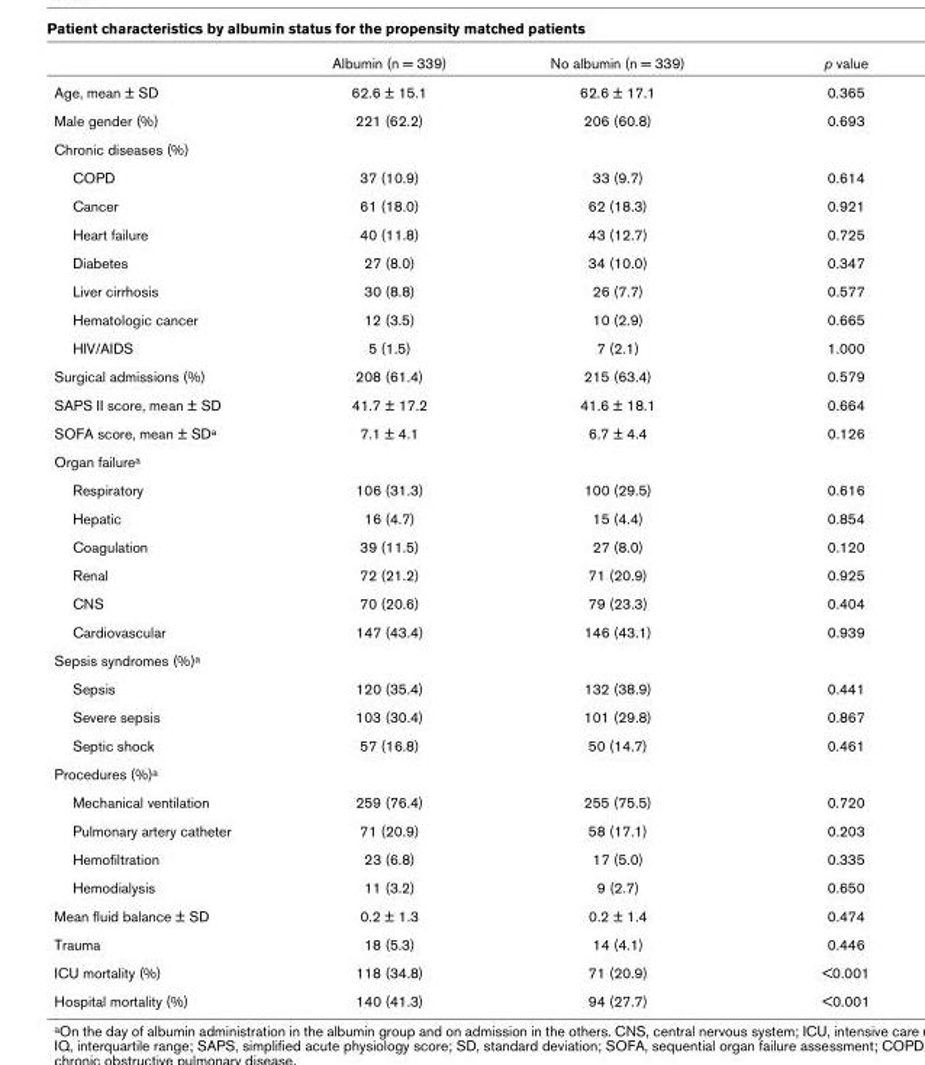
<table><thead><tr><td></td><td>Albumin (n = 339)</td><td>No albumin (n = 339)</td><td>p value</td></tr></thead><tbody><tr><td>Age, mean ± SD</td><td>62.6 ± 15.1</td><td>62.6 ± 17.1</td><td>0.365</td></tr><tr><td>Male gender (%)</td><td>221 (62.2)</td><td>206 (60.8)</td><td>0.693</td></tr><tr><td colspan="4">Chronic diseases (%)</td></tr><tr><td>COPD</td><td>37 (10.9)</td><td>33 (9.7)</td><td>0.614</td></tr><tr><td>Cancer</td><td>61 (18.0)</td><td>62 (18.3)</td><td>0.921</td></tr><tr><td>Heart failure</td><td>40 (11.8)</td><td>43 (12.7)</td><td>0.725</td></tr><tr><td>Diabetes</td><td>27 (8.0)</td><td>34 (10.0)</td><td>0.347</td></tr><tr><td>Liver cirrhosis</td><td>30 (8.8)</td><td>26 (7.7)</td><td>0.577</td></tr><tr><td>Hematologic cancer</td><td>12 (3.5)</td><td>10 (2.9)</td><td>0.665</td></tr><tr><td>HIV/AIDS</td><td>5 (1.5)</td><td>7 (2.1)</td><td>1.000</td></tr><tr><td>Surgical admissions (%)</td><td>208 (61.4)</td><td>215 (63.4)</td><td>0.579</td></tr><tr><td>SAPS II score, mean ± SD</td><td>41.7 ± 17.2</td><td>41.6 ± 18.1</td><td>0.664</td></tr><tr><td>SOFA score, mean ± SDa</td><td>7.1 ± 4.1</td><td>6.7 ± 4.4</td><td>0.126</td></tr><tr><td colspan="4">Organ failurea</td></tr><tr><td>Respiratory</td><td>106 (31.3)</td><td>100 (29.5)</td><td>0.616</td></tr><tr><td>Hepatic</td><td>16 (4.7)</td><td>15 (4.4)</td><td>0.854</td></tr><tr><td>Coagulation</td><td>39 (11.5)</td><td>27 (8.0)</td><td>0.120</td></tr><tr><td>Renal</td><td>72 (21.2)</td><td>71 (20.9)</td><td>0.925</td></tr><tr><td>CNS</td><td>70 (20.6)</td><td>79 (23.3)</td><td>0.404</td></tr><tr><td>Cardiovascular</td><td>147 (43.4)</td><td>146 (43.1)</td><td>0.939</td></tr><tr><td colspan="4">Sepsis syndromes (%)a</td></tr><tr><td>Sepsis</td><td>120 (35.4)</td><td>132 (38.9)</td><td>0.441</td></tr><tr><td>Severe sepsis</td><td>103 (30.4)</td><td>101 (29.8)</td><td>0.867</td></tr><tr><td>Septic shock</td><td>57 (16.8)</td><td>50 (14.7)</td><td>0.461</td></tr><tr><td colspan="4">Procedures (%)a</td></tr><tr><td>Mechanical ventilation</td><td>259 (76.4)</td><td>255 (75.5)</td><td>0.720</td></tr><tr><td>Pulmonary artery catheter</td><td>71 (20.9)</td><td>58 (17.1)</td><td>0.203</td></tr><tr><td>Hemofiltration</td><td>23 (6.8)</td><td>17 (5.0)</td><td>0.335</td></tr><tr><td>Hemodialysis</td><td>11 (3.2)</td><td>9 (2.7)</td><td>0.650</td></tr><tr><td>Mean fluid balance ± SD</td><td>0.2 ± 1.3</td><td>0.2 ± 1.4</td><td>0.474</td></tr><tr><td>Trauma</td><td>18 (5.3)</td><td>14 (4.1)</td><td>0.446</td></tr><tr><td>ICU mortality (%)</td><td>118 (34.8)</td><td>71 (20.9)</td><td>&lt;0.001</td></tr><tr><td>Hospital mortality (%)</td><td>140 (41.3)</td><td>94 (27.7)</td><td>&lt;0.001</td></tr></tbody></table>